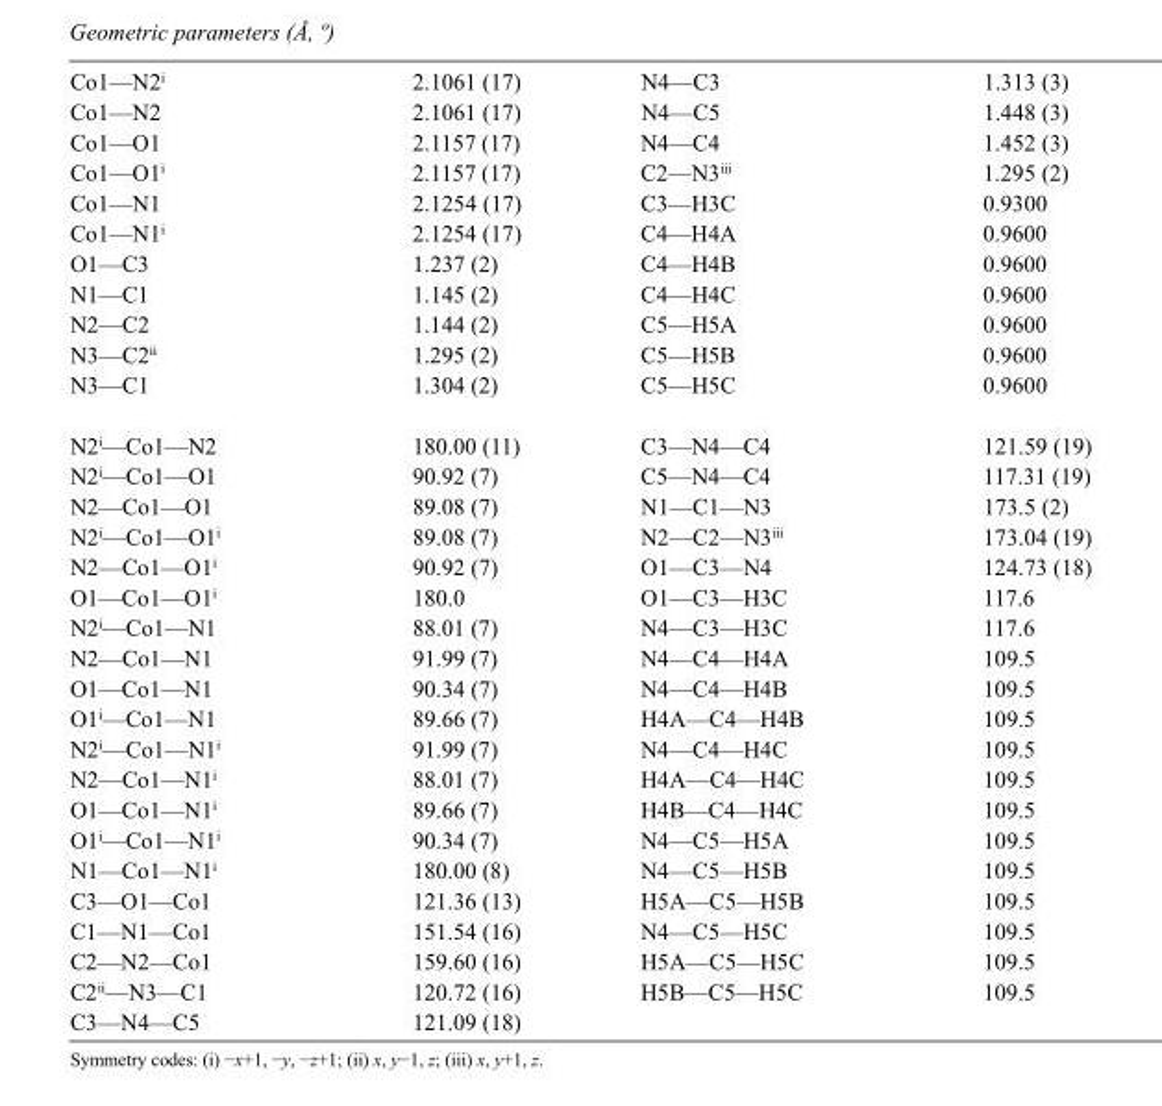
<table><tbody><tr><td>Co1—N2<sup>i</sup></td><td>2.1061 (17)</td><td>N4—C3</td><td>1.313 (3)</td></tr><tr><td>Co1—N2</td><td>2.1061 (17)</td><td>N4—C5</td><td>1.448 (3)</td></tr><tr><td>Co1—O1</td><td>2.1157 (17)</td><td>N4—C4</td><td>1.452 (3)</td></tr><tr><td>Co1—O1<sup>i</sup></td><td>2.1157 (17)</td><td>C2—N3<sup>iii</sup></td><td>1.295 (2)</td></tr><tr><td>Co1—N1</td><td>2.1254 (17)</td><td>C3—H3C</td><td>0.9300</td></tr><tr><td>Co1—N1<sup>i</sup></td><td>2.1254 (17)</td><td>C4—H4A</td><td>0.9600</td></tr><tr><td>O1—C3</td><td>1.237 (2)</td><td>C4—H4B</td><td>0.9600</td></tr><tr><td>N1—C1</td><td>1.145 (2)</td><td>C4—H4C</td><td>0.9600</td></tr><tr><td>N2—C2</td><td>1.144 (2)</td><td>C5—H5A</td><td>0.9600</td></tr><tr><td>N3—C2<sup>ii</sup></td><td>1.295 (2)</td><td>C5—H5B</td><td>0.9600</td></tr><tr><td>N3—C1</td><td>1.304 (2)</td><td>C5—H5C</td><td>0.9600</td></tr><tr><td>N2<sup>i</sup>—Co1—N2</td><td>180.00 (11)</td><td>C3—N4—C4</td><td>121.59 (19)</td></tr><tr><td>N2<sup>i</sup>—Co1—O1</td><td>90.92 (7)</td><td>C5—N4—C4</td><td>117.31 (19)</td></tr><tr><td>N2—Co1—O1</td><td>89.08 (7)</td><td>N1—C1—N3</td><td>173.5 (2)</td></tr><tr><td>N2<sup>i</sup>—Co1—O1<sup>i</sup></td><td>89.08 (7)</td><td>N2—C2—N3<sup>iii</sup></td><td>173.04 (19)</td></tr><tr><td>N2—Co1—O1<sup>i</sup></td><td>90.92 (7)</td><td>O1—C3—N4</td><td>124.73 (18)</td></tr><tr><td>O1—Co1—O1<sup>i</sup></td><td>180.0</td><td>O1—C3—H3C</td><td>117.6</td></tr><tr><td>N2<sup>i</sup>—Co1—N1</td><td>88.01 (7)</td><td>N4—C3—H3C</td><td>117.6</td></tr><tr><td>N2—Co1—N1</td><td>91.99 (7)</td><td>N4—C4—H4A</td><td>109.5</td></tr><tr><td>O1—Co1—N1</td><td>90.34 (7)</td><td>N4—C4—H4B</td><td>109.5</td></tr><tr><td>O1<sup>i</sup>—Co1—N1</td><td>89.66 (7)</td><td>H4A—C4—H4B</td><td>109.5</td></tr><tr><td>N2<sup>i</sup>—Co1—N1<sup>i</sup></td><td>91.99 (7)</td><td>N4—C4—H4C</td><td>109.5</td></tr><tr><td>N2—Co1—N1<sup>i</sup></td><td>88.01 (7)</td><td>H4A—C4—H4C</td><td>109.5</td></tr><tr><td>O1—Co1—N1<sup>i</sup></td><td>89.66 (7)</td><td>H4B—C4—H4C</td><td>109.5</td></tr><tr><td>O1<sup>i</sup>—Co1—N1<sup>i</sup></td><td>90.34 (7)</td><td>N4—C5—H5A</td><td>109.5</td></tr><tr><td>N1—Co1—N1<sup>i</sup></td><td>180.00 (8)</td><td>N4—C5—H5B</td><td>109.5</td></tr><tr><td>C3—O1—Co1</td><td>121.36 (13)</td><td>H5A—C5—H5B</td><td>109.5</td></tr><tr><td>C1—N1—Co1</td><td>151.54 (16)</td><td>N4—C5—H5C</td><td>109.5</td></tr><tr><td>C2—N2—Co1</td><td>159.60 (16)</td><td>H5A—C5—H5C</td><td>109.5</td></tr><tr><td>C2<sup>ii</sup>—N3—C1</td><td>120.72 (16)</td><td>H5B—C5—H5C</td><td>109.5</td></tr><tr><td>C3—N4—C5</td><td>121.09 (18)</td><td></td><td></td></tr></tbody></table>